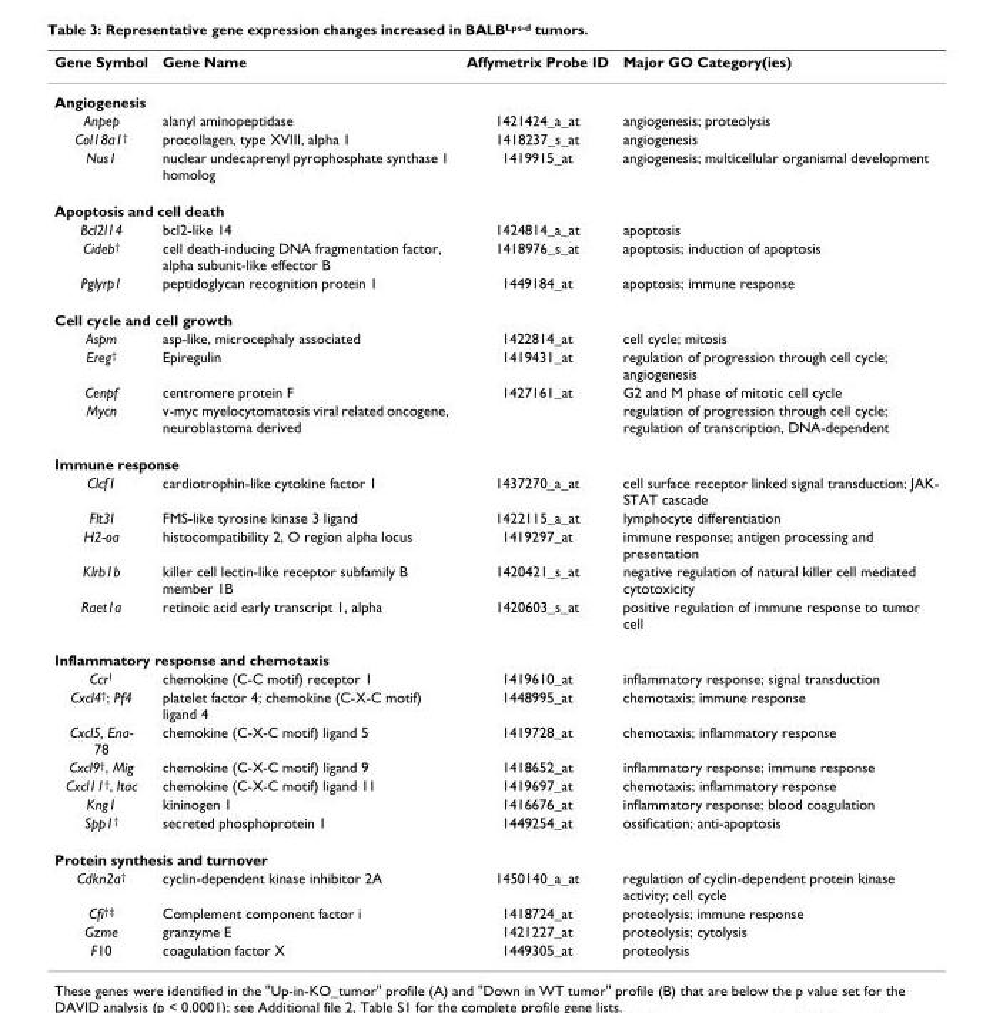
<table><tbody><tr><td>Gene Symbol</td><td>Gene Name</td><td>Affymetrix Probe ID</td><td>Major GO Category(ies)</td></tr><tr><td colspan="4">Angiogenesis</td></tr><tr><td>Anpep</td><td>alanyl aminopeptidase</td><td>1421424_a_at</td><td>angiogenesis; proteolysis</td></tr><tr><td>Col18a1<sup>†</sup></td><td>procollagen, type XVIII, alpha 1</td><td>1418237_s_at</td><td>angiogenesis</td></tr><tr><td>Nus1</td><td>nuclear undecaprenyl pyrophosphate synthase 1 homolog</td><td>1419915_at</td><td>angiogenesis; multicellular organismal development</td></tr><tr><td colspan="4">Apoptosis and cell death</td></tr><tr><td>Bcl2l14</td><td>bcl2-like 14</td><td>1424814_a_at</td><td>apoptosis</td></tr><tr><td>Cideb<sup>†</sup></td><td>cell death-inducing DNA fragmentation factor, alpha subunit-like effector B</td><td>1418976_s_at</td><td>apoptosis; induction of apoptosis</td></tr><tr><td>Pglyrp1</td><td>peptidoglycan recognition protein 1</td><td>1449184_at</td><td>apoptosis; immune response</td></tr><tr><td colspan="4">Cell cycle and cell growth</td></tr><tr><td>Aspm</td><td>asp-like, microcephaly associated</td><td>1422814_at</td><td>cell cycle; mitosis</td></tr><tr><td>Ereg<sup>†</sup></td><td>Epiregulin</td><td>1419431_at</td><td>regulation of progression through cell cycle; angiogenesis</td></tr><tr><td>Cenpf</td><td>centromere protein F</td><td>1427161_at</td><td>G2 and M phase of mitotic cell cycle</td></tr><tr><td>Mycn</td><td>v-myc myelocytomatosis viral related oncogene, neuroblastoma derived</td><td></td><td>regulation of progression through cell cycle; regulation of transcription, DNA-dependent</td></tr><tr><td colspan="4">Immune response</td></tr><tr><td>Clcf1</td><td>cardiotrophin-like cytokine factor 1</td><td>1437270_a_at</td><td>cell surface receptor linked signal transduction; JAK- STAT cascade</td></tr><tr><td>Flt3l</td><td>FMS-like tyrosine kinase 3 ligand</td><td>1422115_a_at</td><td>lymphocyte differentiation</td></tr><tr><td>H2-oa</td><td>histocompatibility 2, O region alpha locus</td><td>1419297_at</td><td>immune response; antigen processing and presentation</td></tr><tr><td>Klrb1b</td><td>killer cell lectin-like receptor subfamily B member 1B</td><td>1420421_s_at</td><td>negative regulation of natural killer cell mediated cytotoxicity</td></tr><tr><td>Raet1a</td><td>retinoic acid early transcript 1, alpha</td><td>1420603_s_at</td><td>positive regulation of immune response to tumor cell</td></tr><tr><td colspan="4">Inflammatory response and chemotaxis</td></tr><tr><td>Ccr<sup>1</sup></td><td>chemokine (C-C motif) receptor 1</td><td>1419610_at</td><td>inflammatory response; signal transduction</td></tr><tr><td>Cxcl4<sup>†</sup>; Pf4</td><td>platelet factor 4; chemokine (C-X-C motif) ligand 4</td><td>1448995_at</td><td>chemotaxis; immune response</td></tr><tr><td>Cxcl5, Ena- 78</td><td>chemokine (C-X-C motif) ligand 5</td><td>1419728_at</td><td>chemotaxis; inflammatory response</td></tr><tr><td>Cxcl9<sup>†</sup>, Mig</td><td>chemokine (C-X-C motif) ligand 9</td><td>1418652_at</td><td>inflammatory response; immune response</td></tr><tr><td>Cxcl11<sup>†</sup>, Itac</td><td>chemokine (C-X-C motif) ligand 11</td><td>1419697_at</td><td>chemotaxis; inflammatory response</td></tr><tr><td>Kng1</td><td>kininogen 1</td><td>1416676_at</td><td>inflammatory response; blood coagulation</td></tr><tr><td>Spp1<sup>†</sup></td><td>secreted phosphoprotein 1</td><td>1449254_at</td><td>ossification; anti-apoptosis</td></tr><tr><td colspan="4">Protein synthesis and turnover</td></tr><tr><td>Cdkn2a<sup>†</sup></td><td>cyclin-dependent kinase inhibitor 2A</td><td>1450140_a_at</td><td>regulation of cyclin-dependent protein kinase activity; cell cycle</td></tr><tr><td>Cfi<sup>†‡</sup></td><td>Complement component factor i</td><td>1418724_at</td><td>proteolysis; immune response</td></tr><tr><td>Gzme</td><td>granzyme E</td><td>1421227_at</td><td>proteolysis; cytolysis</td></tr><tr><td>F10</td><td>coagulation factor X</td><td>1449305_at</td><td>proteolysis</td></tr></tbody></table>